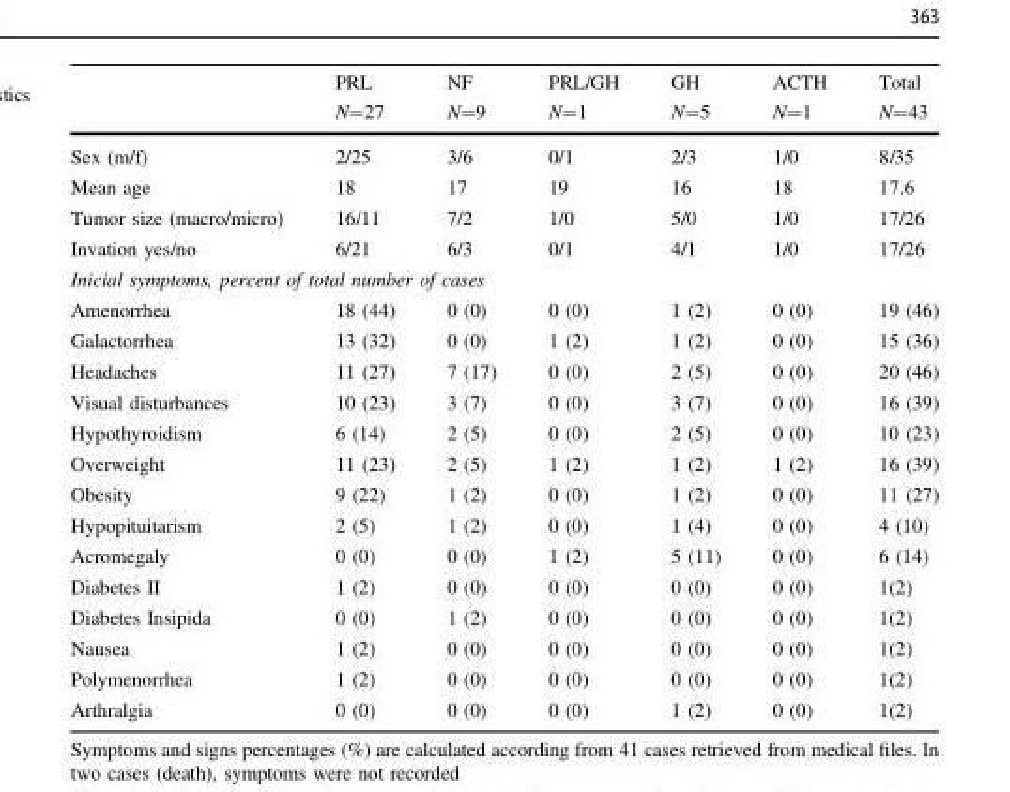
<table><thead><tr><td rowspan="2"></td><td rowspan="2">PRL N=27</td><td rowspan="2">NF N=9</td><td rowspan="2">PRL/GH N=1</td><td rowspan="2">GH N=5</td><td rowspan="2">ACTH N=1</td><td rowspan="2">Total N=43</td></tr><tr></tr></thead><tbody><tr><td>Sex (m/f)</td><td>2/25</td><td>3/6</td><td>0/1</td><td>2/3</td><td>1/0</td><td>8/35</td></tr><tr><td>Mean age</td><td>18</td><td>17</td><td>19</td><td>16</td><td>18</td><td>17.6</td></tr><tr><td>Tumor size (macro/micro)</td><td>16/11</td><td>7/2</td><td>1/0</td><td>5/0</td><td>1/0</td><td>17/26</td></tr><tr><td>Invation yes/no</td><td>6/21</td><td>6/3</td><td>0/1</td><td>4/1</td><td>1/0</td><td>17/26</td></tr><tr><td colspan="7">Inicial symptoms, percent of total number of cases</td></tr><tr><td>Amenorrhea</td><td>18 (44)</td><td>0 (0)</td><td>0 (0)</td><td>1 (2)</td><td>0 (0)</td><td>19 (46)</td></tr><tr><td>Galactorrhea</td><td>13 (32)</td><td>0 (0)</td><td>1 (2)</td><td>1 (2)</td><td>0 (0)</td><td>15 (36)</td></tr><tr><td>Headaches</td><td>11 (27)</td><td>7 (17)</td><td>0 (0)</td><td>2 (5)</td><td>0 (0)</td><td>20 (46)</td></tr><tr><td>Visual disturbances</td><td>10 (23)</td><td>3 (7)</td><td>0 (0)</td><td>3 (7)</td><td>0 (0)</td><td>16 (39)</td></tr><tr><td>Hypothyroidism</td><td>6 (14)</td><td>2 (5)</td><td>0 (0)</td><td>2 (5)</td><td>0 (0)</td><td>10 (23)</td></tr><tr><td>Overweight</td><td>11 (23)</td><td>2 (5)</td><td>1 (2)</td><td>1 (2)</td><td>1 (2)</td><td>16 (39)</td></tr><tr><td>Obesity</td><td>9 (22)</td><td>1 (2)</td><td>0 (0)</td><td>1 (2)</td><td>0 (0)</td><td>11 (27)</td></tr><tr><td>Hypopituitarism</td><td>2 (5)</td><td>1 (2)</td><td>0 (0)</td><td>1 (4)</td><td>0 (0)</td><td>4 (10)</td></tr><tr><td>Acromegaly</td><td>0 (0)</td><td>0 (0)</td><td>1 (2)</td><td>5 (11)</td><td>0 (0)</td><td>6 (14)</td></tr><tr><td>Diabetes II</td><td>1 (2)</td><td>0 (0)</td><td>0 (0)</td><td>0 (0)</td><td>0 (0)</td><td>1(2)</td></tr><tr><td>Diabetes Insipida</td><td>0 (0)</td><td>1 (2)</td><td>0 (0)</td><td>0 (0)</td><td>0 (0)</td><td>1(2)</td></tr><tr><td>Nausea</td><td>1 (2)</td><td>0 (0)</td><td>0 (0)</td><td>0 (0)</td><td>0 (0)</td><td>1(2)</td></tr><tr><td>Polymenorrhea</td><td>1 (2)</td><td>0 (0)</td><td>0 (0)</td><td>0 (0)</td><td>0 (0)</td><td>1(2)</td></tr><tr><td>Arthralgia</td><td>0 (0)</td><td>0 (0)</td><td>0 (0)</td><td>1 (2)</td><td>0 (0)</td><td>1(2)</td></tr></tbody></table>